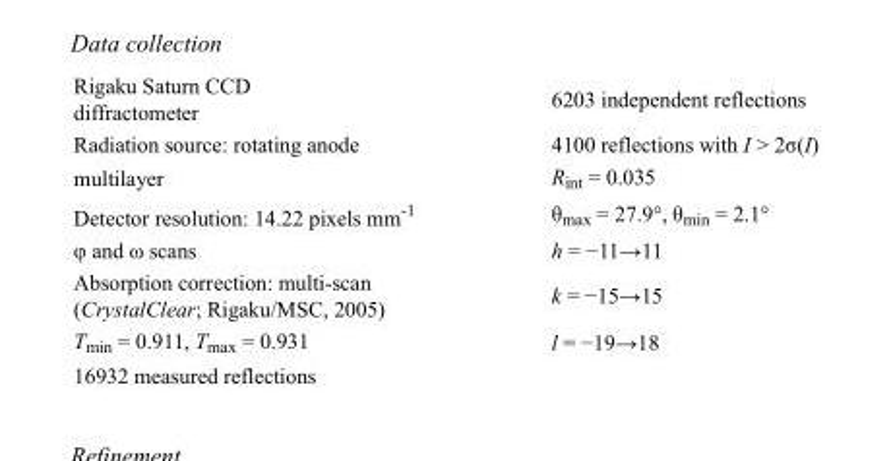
<table><tbody><tr><td>Rigaku Saturn CCD diffractometer</td><td>6203 independent reflections</td></tr><tr><td>Radiation source: rotating anode</td><td>4100 reflections with I &gt; 2σ(I)</td></tr><tr><td>multilayer</td><td>R<sub>int</sub> = 0.035</td></tr><tr><td>Detector resolution: 14.22 pixels mm<sup>-1</sup></td><td>θ<sub>max</sub> = 27.9°, θ<sub>min</sub> = 2.1°</td></tr><tr><td>φ and ω scans</td><td>h = −11→11</td></tr><tr><td>Absorption correction: multi-scan (CrystalClear; Rigaku/MSC, 2005)</td><td>k = −15→15</td></tr><tr><td>T<sub>min</sub> = 0.911, T<sub>max</sub> = 0.931</td><td>l = −19→18</td></tr><tr><td>16932 measured reflections</td><td></td></tr></tbody></table>